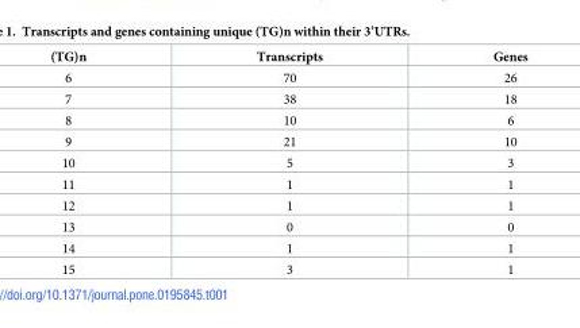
<table><thead><tr><td>(TG)n</td><td>Transcripts</td><td>Genes</td></tr></thead><tbody><tr><td>6</td><td>70</td><td>26</td></tr><tr><td>7</td><td>38</td><td>18</td></tr><tr><td>8</td><td>10</td><td>6</td></tr><tr><td>9</td><td>21</td><td>10</td></tr><tr><td>10</td><td>5</td><td>3</td></tr><tr><td>11</td><td>1</td><td>1</td></tr><tr><td>12</td><td>1</td><td>1</td></tr><tr><td>13</td><td>0</td><td>0</td></tr><tr><td>14</td><td>1</td><td>1</td></tr><tr><td>15</td><td>3</td><td>1</td></tr></tbody></table>